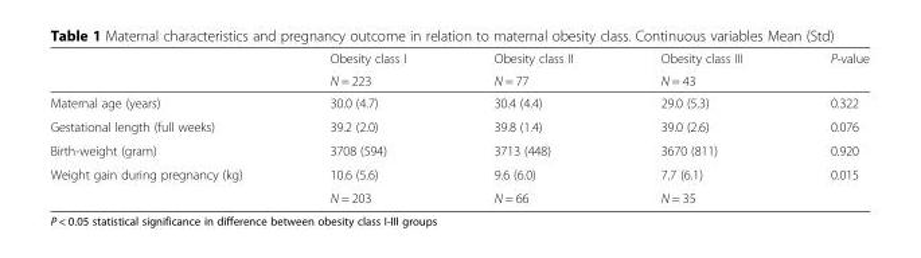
<table><thead><tr><td rowspan="2"></td><td rowspan="2">Obesity class I N = 223</td><td rowspan="2">Obesity class II N = 77</td><td rowspan="2">Obesity class III N = 43</td><td rowspan="2">P-value</td></tr><tr></tr></thead><tbody><tr><td>Maternal age (years)</td><td>30.0 (4.7)</td><td>30.4 (4.4)</td><td>29.0 (5.3)</td><td>0.322</td></tr><tr><td>Gestational length (full weeks)</td><td>39.2 (2.0)</td><td>39.8 (1.4)</td><td>39.0 (2.6)</td><td>0.076</td></tr><tr><td>Birth-weight (gram)</td><td>3708 (594)</td><td>3713 (448)</td><td>3670 (811)</td><td>0.920</td></tr><tr><td rowspan="2">Weight gain during pregnancy (kg)</td><td>10.6 (5.6)</td><td>9.6 (6.0)</td><td>7.7 (6.1)</td><td rowspan="2">0.015</td></tr><tr><td>N = 203</td><td>N = 66</td><td>N = 35</td></tr></tbody></table>